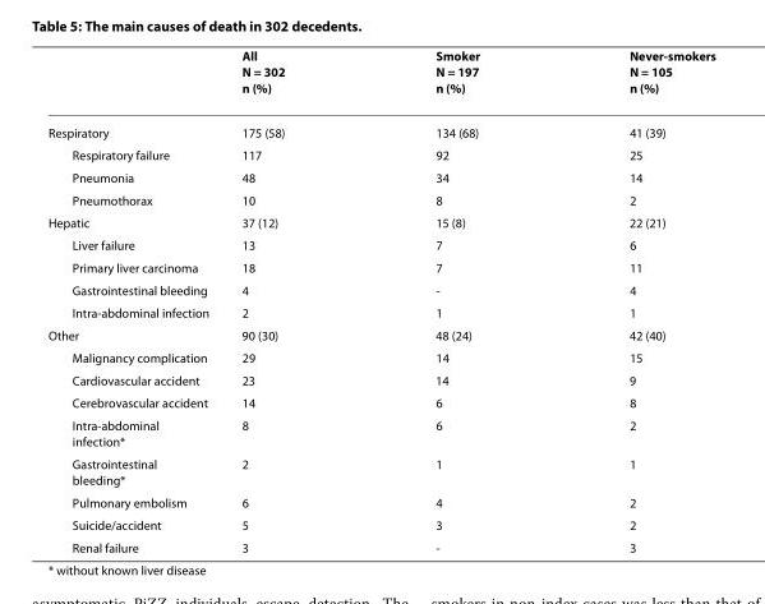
<table><thead><tr><td></td><td>All N = 302 n (%)</td><td>Smoker N = 197 n (%)</td><td>Never-smokers N = 105 n (%)</td></tr></thead><tbody><tr><td>Respiratory</td><td>175 (58)</td><td>134 (68)</td><td>41 (39)</td></tr><tr><td>Respiratory failure</td><td>117</td><td>92</td><td>25</td></tr><tr><td>Pneumonia</td><td>48</td><td>34</td><td>14</td></tr><tr><td>Pneumothorax</td><td>10</td><td>8</td><td>2</td></tr><tr><td>Hepatic</td><td>37 (12)</td><td>15 (8)</td><td>22 (21)</td></tr><tr><td>Liver failure</td><td>13</td><td>7</td><td>6</td></tr><tr><td>Primary liver carcinoma</td><td>18</td><td>7</td><td>11</td></tr><tr><td>Gastrointestinal bleeding</td><td>4</td><td>-</td><td>4</td></tr><tr><td>Intra-abdominal infection</td><td>2</td><td>1</td><td>1</td></tr><tr><td>Other</td><td>90 (30)</td><td>48 (24)</td><td>42 (40)</td></tr><tr><td>Malignancy complication</td><td>29</td><td>14</td><td>15</td></tr><tr><td>Cardiovascular accident</td><td>23</td><td>14</td><td>9</td></tr><tr><td>Cerebrovascular accident</td><td>14</td><td>6</td><td>8</td></tr><tr><td>Intra-abdominal infection*</td><td>8</td><td>6</td><td>2</td></tr><tr><td>Gastrointestinal bleeding*</td><td>2</td><td>1</td><td>1</td></tr><tr><td>Pulmonary embolism</td><td>6</td><td>4</td><td>2</td></tr><tr><td>Suicide/accident</td><td>5</td><td>3</td><td>2</td></tr><tr><td>Renal failure</td><td>3</td><td>-</td><td>3</td></tr></tbody></table>